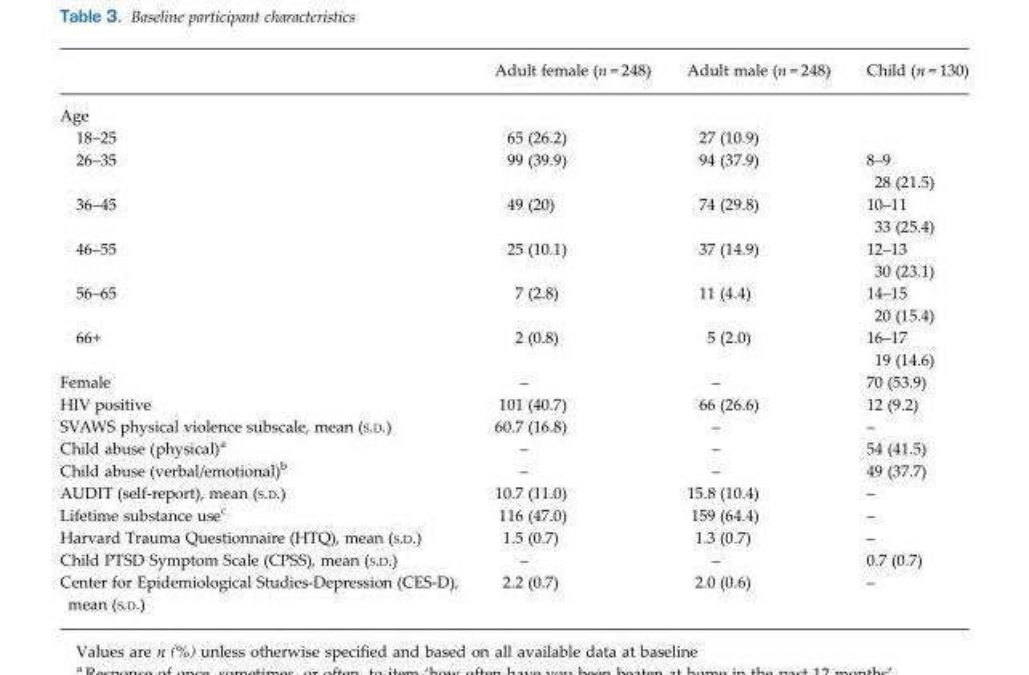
<table><thead><tr><td></td><td>Adult female (n = 248)</td><td>Adult male (n = 248)</td><td>Child (n = 130)</td></tr></thead><tbody><tr><td colspan="4">Age</td></tr><tr><td>18–25</td><td>65 (26.2)</td><td>27 (10.9)</td><td></td></tr><tr><td>26–35</td><td>99 (39.9)</td><td>94 (37.9)</td><td>8–9 28 (21.5)</td></tr><tr><td>36–45</td><td>49 (20)</td><td>74 (29.8)</td><td>10–11 33 (25.4)</td></tr><tr><td>46–55</td><td>25 (10.1)</td><td>37 (14.9)</td><td>12–13 30 (23.1)</td></tr><tr><td>56–65</td><td>7 (2.8)</td><td>11 (4.4)</td><td>14–15 20 (15.4)</td></tr><tr><td>66+</td><td>2 (0.8)</td><td>5 (2.0)</td><td>16–17 19 (14.6)</td></tr><tr><td>Female</td><td>–</td><td>–</td><td>70 (53.9)</td></tr><tr><td>HIV positive</td><td>101 (40.7)</td><td>66 (26.6)</td><td>12 (9.2)</td></tr><tr><td>SVAWS physical violence subscale, mean (S.D.)</td><td>60.7 (16.8)</td><td>–</td><td>–</td></tr><tr><td>Child abuse (physical)<sup>a</sup></td><td>–</td><td>–</td><td>54 (41.5)</td></tr><tr><td>Child abuse (verbal/emotional)<sup>b</sup></td><td>–</td><td>–</td><td>49 (37.7)</td></tr><tr><td>AUDIT (self-report), mean (S.D.)</td><td>10.7 (11.0)</td><td>15.8 (10.4)</td><td>–</td></tr><tr><td>Lifetime substance use<sup>c</sup></td><td>116 (47.0)</td><td>159 (64.4)</td><td>–</td></tr><tr><td>Harvard Trauma Questionnaire (HTQ), mean (S.D.)</td><td>1.5 (0.7)</td><td>1.3 (0.7)</td><td>–</td></tr><tr><td>Child PTSD Symptom Scale (CPSS), mean (S.D.)</td><td>–</td><td>–</td><td>0.7 (0.7)</td></tr><tr><td>Center for Epidemiological Studies-Depression (CES-D), mean (S.D.)</td><td>2.2 (0.7)</td><td>2.0 (0.6)</td><td>–</td></tr></tbody></table>